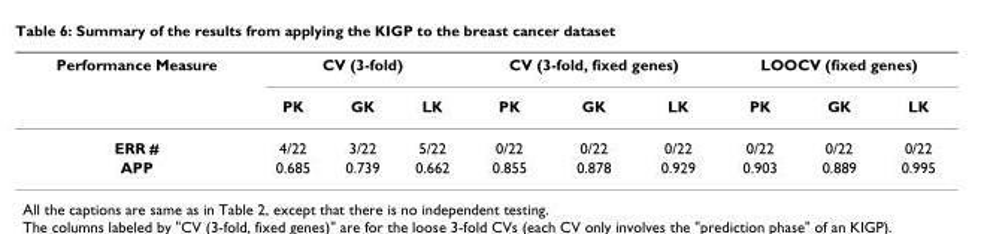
<table><thead><tr><td rowspan="2">Performance Measure</td><td colspan="3">CV (3-fold)</td><td colspan="3">CV (3-fold, fixed genes)</td><td colspan="3">LOOCV (fixed genes)</td></tr><tr><td>PK</td><td>GK</td><td>LK</td><td>PK</td><td>GK</td><td>LK</td><td>PK</td><td>GK</td><td>LK</td></tr></thead><tbody><tr><td>ERR #</td><td>4/22</td><td>3/22</td><td>5/22</td><td>0/22</td><td>0/22</td><td>0/22</td><td>0/22</td><td>0/22</td><td>0/22</td></tr><tr><td>APP</td><td>0.685</td><td>0.739</td><td>0.662</td><td>0.855</td><td>0.878</td><td>0.929</td><td>0.903</td><td>0.889</td><td>0.995</td></tr></tbody></table>